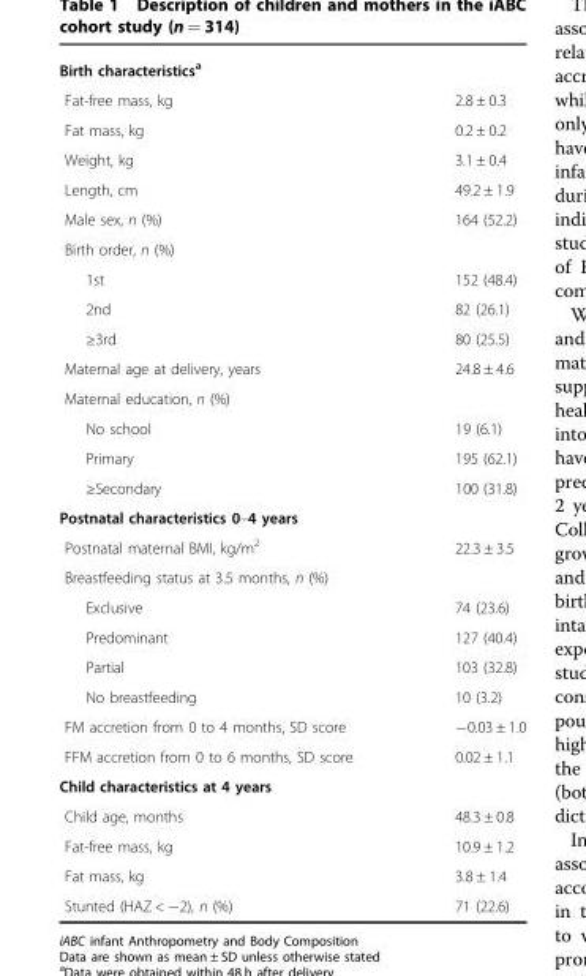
<table><tbody><tr><td colspan="2">Birth characteristics<sup>a</sup></td></tr><tr><td>Fat-free mass, kg</td><td>2.8 ± 0.3</td></tr><tr><td>Fat mass, kg</td><td>0.2 ± 0.2</td></tr><tr><td>Weight, kg</td><td>3.1 ± 0.4</td></tr><tr><td>Length, cm</td><td>49.2 ± 1.9</td></tr><tr><td>Male sex, n (%)</td><td>164 (52.2)</td></tr><tr><td colspan="2">Birth order, n (%)</td></tr><tr><td>1st</td><td>152 (48.4)</td></tr><tr><td>2nd</td><td>82 (26.1)</td></tr><tr><td>≥3rd</td><td>80 (25.5)</td></tr><tr><td>Maternal age at delivery, years</td><td>24.8 ± 4.6</td></tr><tr><td colspan="2">Maternal education, n (%)</td></tr><tr><td>No school</td><td>19 (6.1)</td></tr><tr><td>Primary</td><td>195 (62.1)</td></tr><tr><td>≥Secondary</td><td>100 (31.8)</td></tr><tr><td colspan="2">Postnatal characteristics 0–4 years</td></tr><tr><td>Postnatal maternal BMI, kg/m<sup>2</sup></td><td>22.3 ± 3.5</td></tr><tr><td colspan="2">Breastfeeding status at 3.5 months, n (%)</td></tr><tr><td>Exclusive</td><td>74 (23.6)</td></tr><tr><td>Predominant</td><td>127 (40.4)</td></tr><tr><td>Partial</td><td>103 (32.8)</td></tr><tr><td>No breastfeeding</td><td>10 (3.2)</td></tr><tr><td>FM accretion from 0 to 4 months, SD score</td><td>−0.03 ± 1.0</td></tr><tr><td>FFM accretion from 0 to 6 months, SD score</td><td>0.02 ± 1.1</td></tr><tr><td colspan="2">Child characteristics at 4 years</td></tr><tr><td>Child age, months</td><td>48.3 ± 0.8</td></tr><tr><td>Fat-free mass, kg</td><td>10.9 ± 1.2</td></tr><tr><td>Fat mass, kg</td><td>3.8 ± 1.4</td></tr><tr><td>Stunted (HAZ &lt; −2), n (%)</td><td>71 (22.6)</td></tr></tbody></table>